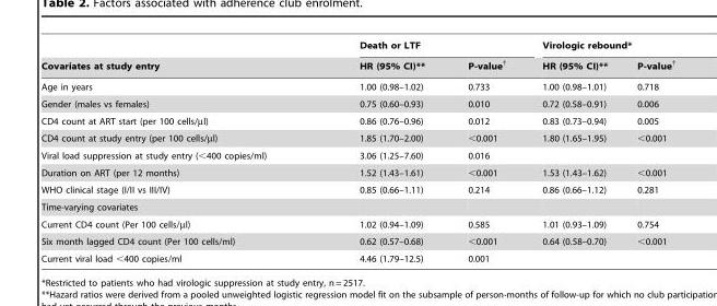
<table><thead><tr><td rowspan="2">Covariates at study entry</td><td colspan="2">Death or LTF</td><td colspan="2">Virologic rebound*</td></tr><tr><td>HR (95% CI)**</td><td>P-value†</td><td>HR (95% CI)**</td><td>P-value†</td></tr></thead><tbody><tr><td>Age in years</td><td>1.00 (0.98–1.02)</td><td>0.733</td><td>1.00 (0.98–1.01)</td><td>0.718</td></tr><tr><td>Gender (males vs females)</td><td>0.75 (0.60–0.93)</td><td>0.010</td><td>0.72 (0.58–0.91)</td><td>0.006</td></tr><tr><td>CD4 count at ART start (per 100 cells/µl)</td><td>0.86 (0.76–0.96)</td><td>0.012</td><td>0.83 (0.73–0.94)</td><td>0.005</td></tr><tr><td>CD4 count at study entry (per 100 cells/µl)</td><td>1.85 (1.70–2.00)</td><td>&lt;0.001</td><td>1.80 (1.65–1.95)</td><td>&lt;0.001</td></tr><tr><td>Viral load suppression at study entry (&lt;400 copies/ml)</td><td>3.06 (1.25–7.60)</td><td>0.016</td><td></td><td></td></tr><tr><td>Duration on ART (per 12 months)</td><td>1.52 (1.43–1.61)</td><td>&lt;0.001</td><td>1.53 (1.43–1.62)</td><td>&lt;0.001</td></tr><tr><td>WHO clinical stage (I/II vs III/IV)</td><td>0.85 (0.66–1.11)</td><td>0.214</td><td>0.86 (0.66–1.12)</td><td>0.281</td></tr><tr><td colspan="5">Time-varying covariates</td></tr><tr><td>Current CD4 count (Per 100 cells/µl)</td><td>1.02 (0.94–1.09)</td><td>0.585</td><td>1.01 (0.93–1.09)</td><td>0.754</td></tr><tr><td>Six month lagged CD4 count (Per 100 cells/ml)</td><td>0.62 (0.57–0.68)</td><td>&lt;0.001</td><td>0.64 (0.58–0.70)</td><td>&lt;0.001</td></tr><tr><td>Current viral load &lt;400 copies/ml</td><td>4.46 (1.79–12.5)</td><td>0.001</td><td></td><td></td></tr></tbody></table>